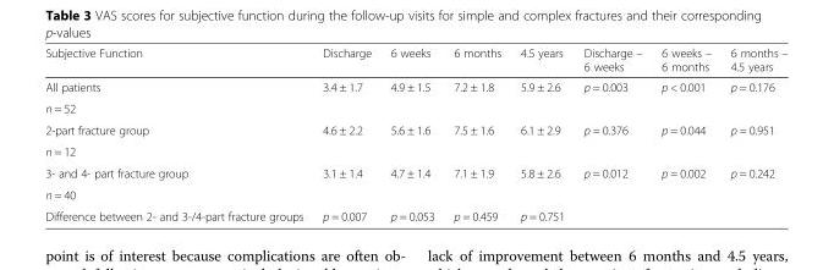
<table><thead><tr><td>Subjective Function</td><td>Discharge</td><td>6 weeks</td><td>6 months</td><td>4.5 years</td><td>Discharge – 6 weeks</td><td>6 weeks – 6 months</td><td>6 months – 4.5 years</td></tr></thead><tbody><tr><td>All patients</td><td rowspan="2">3.4 ± 1.7</td><td rowspan="2">4.9 ± 1.5</td><td rowspan="2">7.2 ± 1.8</td><td rowspan="2">5.9 ± 2.6</td><td rowspan="2">p = 0.003</td><td rowspan="2">p &lt; 0.001</td><td rowspan="2">p = 0.176</td></tr><tr><td>n = 52</td></tr><tr><td>2-part fracture group</td><td rowspan="2">4.6 ± 2.2</td><td rowspan="2">5.6 ± 1.6</td><td rowspan="2">7.5 ± 1.6</td><td rowspan="2">6.1 ± 2.9</td><td rowspan="2">p = 0.376</td><td rowspan="2">p = 0.044</td><td rowspan="2">p = 0.951</td></tr><tr><td>n = 12</td></tr><tr><td>3- and 4- part fracture group</td><td rowspan="2">3.1 ± 1.4</td><td rowspan="2">4.7 ± 1.4</td><td rowspan="2">7.1 ± 1.9</td><td rowspan="2">5.8 ± 2.6</td><td rowspan="2">p = 0.012</td><td rowspan="2">p = 0.002</td><td rowspan="2">p = 0.242</td></tr><tr><td>n = 40</td></tr><tr><td>Difference between 2- and 3-/4-part fracture groups</td><td>p = 0.007</td><td>p = 0.053</td><td>p = 0.459</td><td>p = 0.751</td><td></td><td></td><td></td></tr></tbody></table>